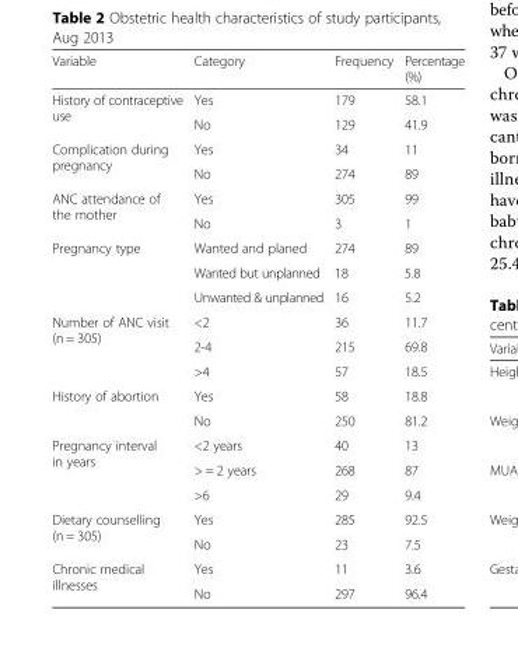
<table><thead><tr><td>Variable</td><td>Category</td><td>Frequency</td><td>Percentage (%)</td></tr></thead><tbody><tr><td rowspan="2">History of contraceptive use</td><td>Yes</td><td>179</td><td>58.1</td></tr><tr><td>No</td><td>129</td><td>41.9</td></tr><tr><td rowspan="2">Complication during pregnancy</td><td>Yes</td><td>34</td><td>11</td></tr><tr><td>No</td><td>274</td><td>89</td></tr><tr><td rowspan="2">ANC attendance of the mother</td><td>Yes</td><td>305</td><td>99</td></tr><tr><td>No</td><td>3</td><td>1</td></tr><tr><td rowspan="3">Pregnancy type</td><td>Wanted and planed</td><td>274</td><td>89</td></tr><tr><td>Wanted but unplanned</td><td>18</td><td>5.8</td></tr><tr><td>Unwanted &amp; unplanned</td><td>16</td><td>5.2</td></tr><tr><td rowspan="3">Number of ANC visit (n = 305)</td><td>&lt;2</td><td>36</td><td>11.7</td></tr><tr><td>2-4</td><td>215</td><td>69.8</td></tr><tr><td>&gt;4</td><td>57</td><td>18.5</td></tr><tr><td rowspan="2">History of abortion</td><td>Yes</td><td>58</td><td>18.8</td></tr><tr><td>No</td><td>250</td><td>81.2</td></tr><tr><td rowspan="3">Pregnancy interval in years</td><td>&lt;2 years</td><td>40</td><td>13</td></tr><tr><td>&gt; = 2 years</td><td>268</td><td>87</td></tr><tr><td>&gt;6</td><td>29</td><td>9.4</td></tr><tr><td rowspan="2">Dietary counselling (n = 305)</td><td>Yes</td><td>285</td><td>92.5</td></tr><tr><td>No</td><td>23</td><td>7.5</td></tr><tr><td rowspan="2">Chronic medical illnesses</td><td>Yes</td><td>11</td><td>3.6</td></tr><tr><td>No</td><td>297</td><td>96.4</td></tr></tbody></table>